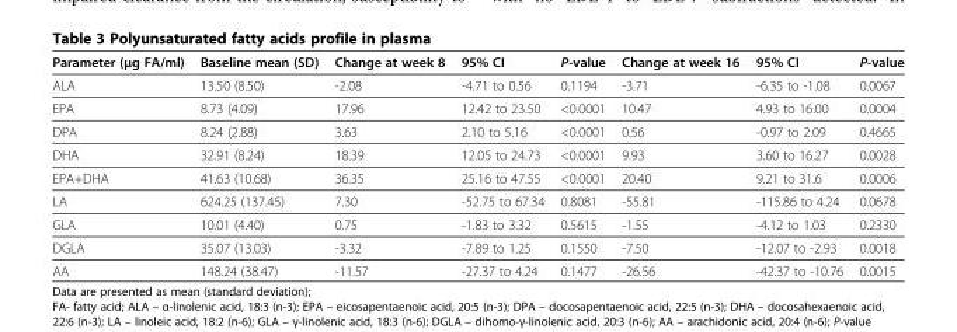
<table><thead><tr><td>Parameter (μg FA/ml)</td><td>Baseline mean (SD)</td><td>Change at week 8</td><td>95% CI</td><td>P-value</td><td>Change at week 16</td><td>95% CI</td><td>P-value</td></tr></thead><tbody><tr><td>ALA</td><td>13.50 (8.50)</td><td>-2.08</td><td>-4.71 to 0.56</td><td>0.1194</td><td>-3.71</td><td>-6.35 to -1.08</td><td>0.0067</td></tr><tr><td>EPA</td><td>8.73 (4.09)</td><td>17.96</td><td>12.42 to 23.50</td><td>&lt;0.0001</td><td>10.47</td><td>4.93 to 16.00</td><td>0.0004</td></tr><tr><td>DPA</td><td>8.24 (2.88)</td><td>3.63</td><td>2.10 to 5.16</td><td>&lt;0.0001</td><td>0.56</td><td>-0.97 to 2.09</td><td>0.4665</td></tr><tr><td>DHA</td><td>32.91 (8.24)</td><td>18.39</td><td>12.05 to 24.73</td><td>&lt;0.0001</td><td>9.93</td><td>3.60 to 16.27</td><td>0.0028</td></tr><tr><td>EPA+DHA</td><td>41.63 (10.68)</td><td>36.35</td><td>25.16 to 47.55</td><td>&lt;0.0001</td><td>20.40</td><td>9.21 to 31.6</td><td>0.0006</td></tr><tr><td>LA</td><td>624.25 (137.45)</td><td>7.30</td><td>-52.75 to 67.34</td><td>0.8081</td><td>-55.81</td><td>-115.86 to 4.24</td><td>0.0678</td></tr><tr><td>GLA</td><td>10.01 (4.40)</td><td>0.75</td><td>-1.83 to 3.32</td><td>0.5615</td><td>-1.55</td><td>-4.12 to 1.03</td><td>0.2330</td></tr><tr><td>DGLA</td><td>35.07 (13.03)</td><td>-3.32</td><td>-7.89 to 1.25</td><td>0.1550</td><td>-7.50</td><td>-12.07 to -2.93</td><td>0.0018</td></tr><tr><td>AA</td><td>148.24 (38.47)</td><td>-11.57</td><td>-27.37 to 4.24</td><td>0.1477</td><td>-26.56</td><td>-42.37 to -10.76</td><td>0.0015</td></tr></tbody></table>